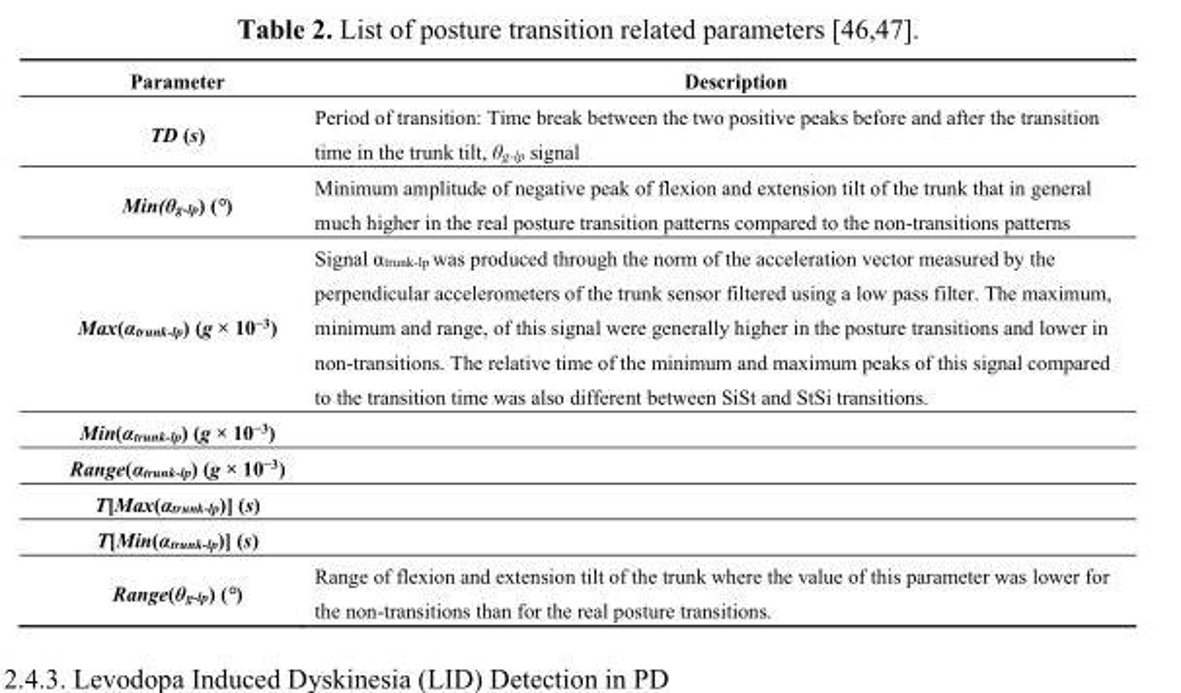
<table><thead><tr><td>Parameter</td><td>Description</td></tr></thead><tbody><tr><td>TD (s)</td><td>Period of transition: Time break between the two positive peaks before and after the transition time in the trunk tilt, θ<sub>g-lp</sub> signal</td></tr><tr><td>Min(θ<sub>g-lp</sub>) (°)</td><td>Minimum amplitude of negative peak of flexion and extension tilt of the trunk that in general much higher in the real posture transition patterns compared to the non-transitions patterns</td></tr><tr><td>Max(α<sub>trunk-lp</sub>) (g × 10<sup>−3</sup>)</td><td>Signal α<sub>trunk-lp</sub> was produced through the norm of the acceleration vector measured by the perpendicular accelerometers of the trunk sensor filtered using a low pass filter. The maximum, minimum and range, of this signal were generally higher in the posture transitions and lower in non-transitions. The relative time of the minimum and maximum peaks of this signal compared to the transition time was also different between SiSt and StSi transitions.</td></tr><tr><td colspan="2">Min(α<sub>trunk-lp</sub>) (g × 10<sup>−3</sup>)</td></tr><tr><td colspan="2">Range(α<sub>trunk-lp</sub>) (g × 10<sup>−3</sup>)</td></tr><tr><td colspan="2">T[Max(α<sub>trunk-lp</sub>)] (s)</td></tr><tr><td colspan="2">T[Min(α<sub>trunk-lp</sub>)] (s)</td></tr><tr><td>Range(θ<sub>g-lp</sub>) (°)</td><td>Range of flexion and extension tilt of the trunk where the value of this parameter was lower for the non-transitions than for the real posture transitions.</td></tr></tbody></table>